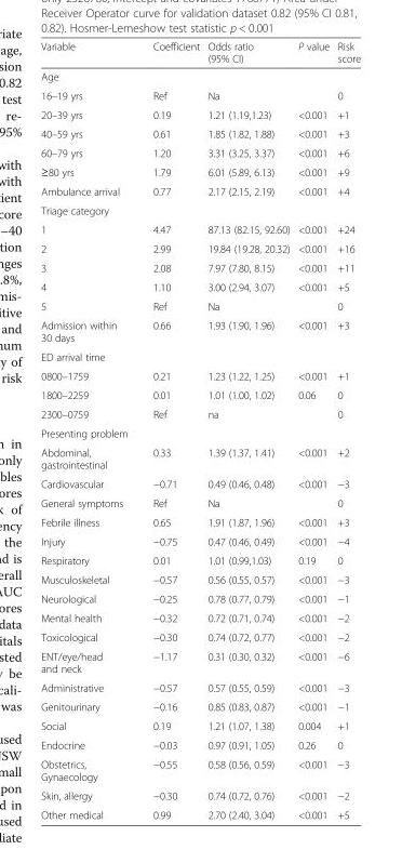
<table><thead><tr><td>Variable</td><td>Coefficient</td><td>Odds ratio (95% CI)</td><td>P value</td><td>Risk score</td></tr></thead><tbody><tr><td colspan="5">Age</td></tr><tr><td>16–19 yrs</td><td>Ref</td><td>Na</td><td></td><td>0</td></tr><tr><td>20–39 yrs</td><td>0.19</td><td>1.21 (1.19,1.23)</td><td>&lt;0.001</td><td>+1</td></tr><tr><td>40–59 yrs</td><td>0.61</td><td>1.85 (1.82, 1.88)</td><td>&lt;0.001</td><td>+3</td></tr><tr><td>60–79 yrs</td><td>1.20</td><td>3.31 (3.25, 3.37)</td><td>&lt;0.001</td><td>+6</td></tr><tr><td>≥80 yrs</td><td>1.79</td><td>6.01 (5.89, 6.13)</td><td>&lt;0.001</td><td>+9</td></tr><tr><td>Ambulance arrival</td><td>0.77</td><td>2.17 (2.15, 2.19)</td><td>&lt;0.001</td><td>+4</td></tr><tr><td colspan="5">Triage category</td></tr><tr><td>1</td><td>4.47</td><td>87.13 (82.15, 92.60)</td><td>&lt;0.001</td><td>+24</td></tr><tr><td>2</td><td>2.99</td><td>19.84 (19.28, 20.32)</td><td>&lt;0.001</td><td>+16</td></tr><tr><td>3</td><td>2.08</td><td>7.97 (7.80, 8.15)</td><td>&lt;0.001</td><td>+11</td></tr><tr><td>4</td><td>1.10</td><td>3.00 (2.94, 3.07)</td><td>&lt;0.001</td><td>+5</td></tr><tr><td>5</td><td>Ref</td><td>Na</td><td></td><td>0</td></tr><tr><td>Admission within 30 days</td><td>0.66</td><td>1.93 (1.90, 1.96)</td><td>&lt;0.001</td><td>+3</td></tr><tr><td colspan="5">ED arrival time</td></tr><tr><td>0800–1759</td><td>0.21</td><td>1.23 (1.22, 1.25)</td><td>&lt;0.001</td><td>+1</td></tr><tr><td>1800–2259</td><td>0.01</td><td>1.01 (1.00, 1.02)</td><td>0.06</td><td>0</td></tr><tr><td>2300–0759</td><td>Ref</td><td>na</td><td></td><td>0</td></tr><tr><td colspan="5">Presenting problem</td></tr><tr><td>Abdominal, gastrointestinal</td><td>0.33</td><td>1.39 (1.37, 1.41)</td><td>&lt;0.001</td><td>+2</td></tr><tr><td>Cardiovascular</td><td>−0.71</td><td>0.49 (0.46, 0.48)</td><td>&lt;0.001</td><td>−3</td></tr><tr><td>General symptoms</td><td>Ref</td><td>Na</td><td></td><td>0</td></tr><tr><td>Febrile illness</td><td>0.65</td><td>1.91 (1.87, 1.96)</td><td>&lt;0.001</td><td>+3</td></tr><tr><td>Injury</td><td>−0.75</td><td>0.47 (0.46, 0.49)</td><td>&lt;0.001</td><td>−4</td></tr><tr><td>Respiratory</td><td>0.01</td><td>1.01 (0.99,1.03)</td><td>0.19</td><td>0</td></tr><tr><td>Musculoskeletal</td><td>−0.57</td><td>0.56 (0.55, 0.57)</td><td>&lt;0.001</td><td>−3</td></tr><tr><td>Neurological</td><td>−0.25</td><td>0.78 (0.77, 0.79)</td><td>&lt;0.001</td><td>−1</td></tr><tr><td>Mental health</td><td>−0.32</td><td>0.72 (0.71, 0.74)</td><td>&lt;0.001</td><td>−2</td></tr><tr><td>Toxicological</td><td>−0.30</td><td>0.74 (0.72, 0.77)</td><td>&lt;0.001</td><td>−2</td></tr><tr><td>ENT/eye/head and neck</td><td>−1.17</td><td>0.31 (0.30, 0.32)</td><td>&lt;0.001</td><td>−6</td></tr><tr><td>Administrative</td><td>−0.57</td><td>0.57 (0.55, 0.59)</td><td>&lt;0.001</td><td>−3</td></tr><tr><td>Genitourinary</td><td>−0.16</td><td>0.85 (0.83, 0.87)</td><td>&lt;0.001</td><td>−1</td></tr><tr><td>Social</td><td>0.19</td><td>1.21 (1.07, 1.38)</td><td>0.004</td><td>+1</td></tr><tr><td>Endocrine</td><td>−0.03</td><td>0.97 (0.91, 1.05)</td><td>0.26</td><td>0</td></tr><tr><td>Obstetrics, Gynaecology</td><td>−0.55</td><td>0.58 (0.56, 0.59)</td><td>&lt;0.001</td><td>−3</td></tr><tr><td>Skin, allergy</td><td>−0.30</td><td>0.74 (0.72, 0.76)</td><td>&lt;0.001</td><td>−2</td></tr><tr><td>Other medical</td><td>0.99</td><td>2.70 (2.40, 3.04)</td><td>&lt;0.001</td><td>+5</td></tr></tbody></table>